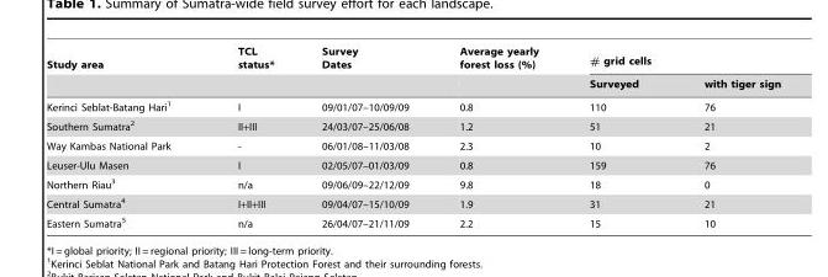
<table><thead><tr><td rowspan="2">Study area</td><td rowspan="2">TCL status*</td><td rowspan="2">Survey Dates</td><td rowspan="2">Average yearly forest loss (%)</td><td colspan="2"># grid cells</td></tr><tr><td>Surveyed</td><td>with tiger sign</td></tr></thead><tbody><tr><td>Kerinci Seblat-Batang Hari<sup>1</sup></td><td>I</td><td>09/01/07–10/09/09</td><td>0.8</td><td>110</td><td>76</td></tr><tr><td>Southern Sumatra<sup>2</sup></td><td>II+III</td><td>24/03/07–25/06/08</td><td>1.2</td><td>51</td><td>21</td></tr><tr><td>Way Kambas National Park</td><td>-</td><td>06/01/08–11/03/08</td><td>2.3</td><td>10</td><td>2</td></tr><tr><td>Leuser-Ulu Masen</td><td>I</td><td>02/05/07–01/03/09</td><td>0.8</td><td>159</td><td>76</td></tr><tr><td>Northern Riau<sup>3</sup></td><td>n/a</td><td>09/06/09–22/12/09</td><td>9.8</td><td>18</td><td>0</td></tr><tr><td>Central Sumatra<sup>4</sup></td><td>I+II+III</td><td>09/04/07–15/10/09</td><td>1.9</td><td>31</td><td>21</td></tr><tr><td>Eastern Sumatra<sup>5</sup></td><td>n/a</td><td>26/04/07–21/11/09</td><td>2.2</td><td>15</td><td>10</td></tr></tbody></table>